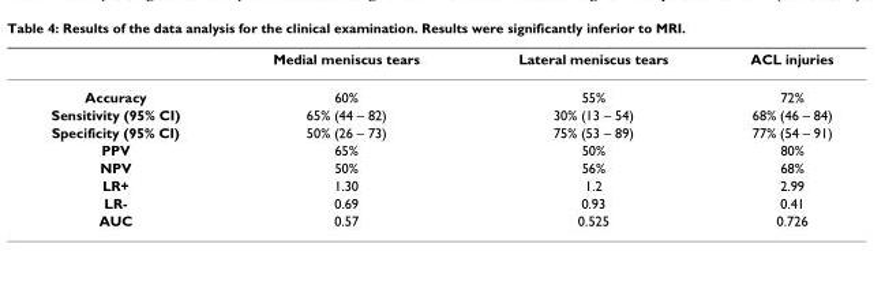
<table><thead><tr><td></td><td>Medial meniscus tears</td><td>Lateral meniscus tears</td><td>ACL injuries</td></tr></thead><tbody><tr><td>Accuracy</td><td>60%</td><td>55%</td><td>72%</td></tr><tr><td>Sensitivity (95% CI)</td><td>65% (44 – 82)</td><td>30% (13 – 54)</td><td>68% (46 – 84)</td></tr><tr><td>Specificity (95% CI)</td><td>50% (26 – 73)</td><td>75% (53 – 89)</td><td>77% (54 – 91)</td></tr><tr><td>PPV</td><td>65%</td><td>50%</td><td>80%</td></tr><tr><td>NPV</td><td>50%</td><td>56%</td><td>68%</td></tr><tr><td>LR+</td><td>1.30</td><td>1.2</td><td>2.99</td></tr><tr><td>LR-</td><td>0.69</td><td>0.93</td><td>0.41</td></tr><tr><td>AUC</td><td>0.57</td><td>0.525</td><td>0.726</td></tr></tbody></table>